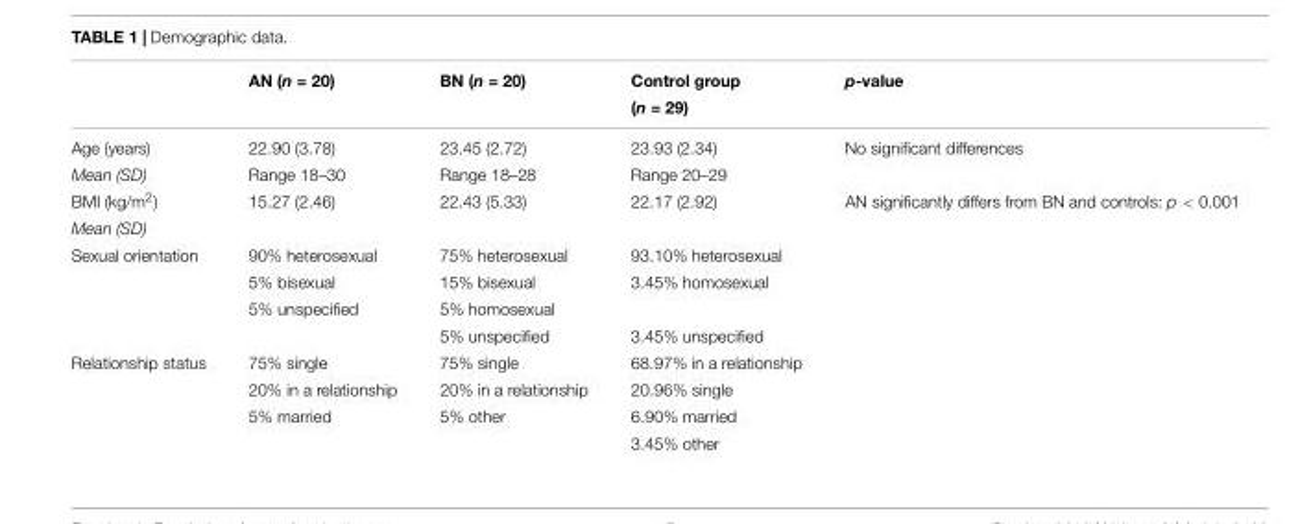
<table><thead><tr><td></td><td>AN (n = 20)</td><td>BN (n = 20)</td><td>Control group (n = 29)</td><td>p-value</td></tr></thead><tbody><tr><td>Age (years)</td><td>22.90 (3.78)</td><td>23.45 (2.72)</td><td>23.93 (2.34)</td><td>No significant differences</td></tr><tr><td>Mean (SD)</td><td>Range 18–30</td><td>Range 18–28</td><td>Range 20–29</td><td></td></tr><tr><td>BMI (kg/m<sup>2</sup>)</td><td>15.27 (2.46)</td><td>22.43 (5.33)</td><td>22.17 (2.92)</td><td>AN significantly differs from BN and controls: p &lt; 0.001</td></tr><tr><td colspan="5">Mean (SD)</td></tr><tr><td rowspan="4">Sexual orientation</td><td>90% heterosexual</td><td>75% heterosexual</td><td>93.10% heterosexual</td><td></td></tr><tr><td>5% bisexual</td><td>15% bisexual</td><td>3.45% homosexual</td><td></td></tr><tr><td>5% unspecified</td><td>5% homosexual</td><td></td><td></td></tr><tr><td></td><td>5% unspecified</td><td>3.45% unspecified</td><td></td></tr><tr><td rowspan="4">Relationship status</td><td>75% single</td><td>75% single</td><td>68.97% in a relationship</td><td></td></tr><tr><td>20% in a relationship</td><td>20% in a relationship</td><td>20.96% single</td><td></td></tr><tr><td>5% married</td><td>5% other</td><td>6.90% married</td><td></td></tr><tr><td></td><td></td><td>3.45% other</td><td></td></tr></tbody></table>